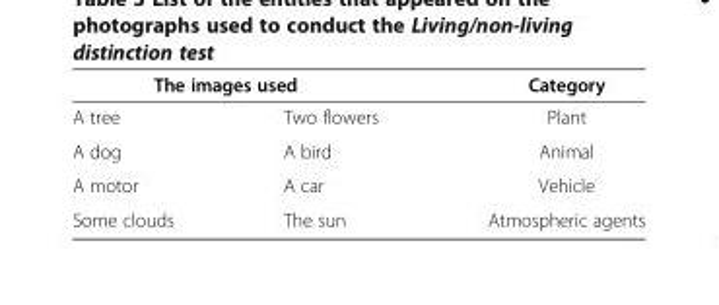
<table><thead><tr><td colspan="2">The images used</td><td rowspan="2">Category Plant</td></tr><tr><td>A tree</td><td>Two flowers</td></tr></thead><tbody><tr><td>A dog</td><td>A bird</td><td>Animal</td></tr><tr><td>A motor</td><td>A car</td><td>Vehicle</td></tr><tr><td>Some clouds</td><td>The sun</td><td>Atmospheric agents</td></tr></tbody></table>